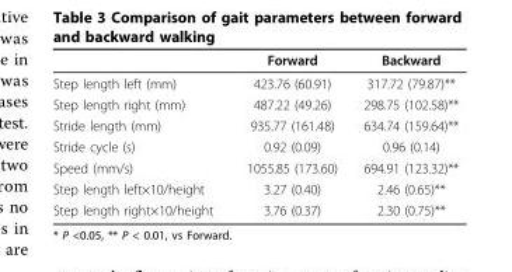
<table><thead><tr><td></td><td>Forward</td><td>Backward</td></tr></thead><tbody><tr><td>Step length left (mm)</td><td>423.76 (60.91)</td><td>317.72 (79.87)**</td></tr><tr><td>Step length right (mm)</td><td>487.22 (49.26)</td><td>298.75 (102.58)**</td></tr><tr><td>Stride length (mm)</td><td>935.77 (161.48)</td><td>634.74 (159.64)**</td></tr><tr><td>Stride cycle (s)</td><td>0.92 (0.09)</td><td>0.96 (0.14)</td></tr><tr><td>Speed (mm/s)</td><td>1055.85 (173.60)</td><td>694.91 (123.32)**</td></tr><tr><td>Step length left×10/height</td><td>3.27 (0.40)</td><td>2.46 (0.65)**</td></tr><tr><td>Step length right×10/height</td><td>3.76 (0.37)</td><td>2.30 (0.75)**</td></tr></tbody></table>